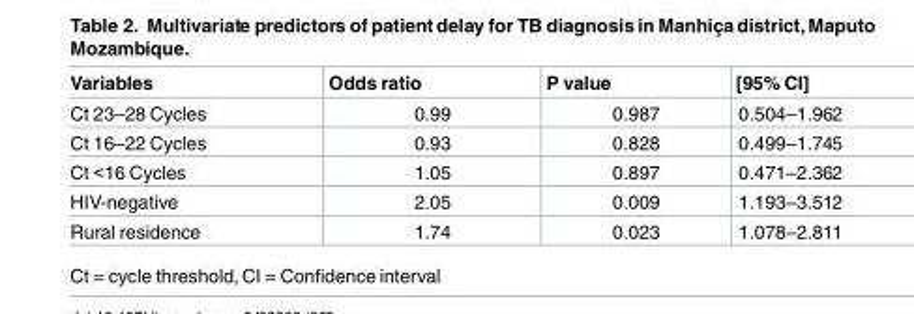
<table><thead><tr><td>Variables</td><td>Odds ratio</td><td>P value</td><td>[95% CI]</td></tr></thead><tbody><tr><td>Ct 23–28 Cycles</td><td>0.99</td><td>0.987</td><td>0.504–1.962</td></tr><tr><td>Ct 16–22 Cycles</td><td>0.93</td><td>0.828</td><td>0.499–1.745</td></tr><tr><td>Ct &lt;16 Cycles</td><td>1.05</td><td>0.897</td><td>0.471–2.362</td></tr><tr><td>HIV-negative</td><td>2.05</td><td>0.009</td><td>1.193–3.512</td></tr><tr><td>Rural residence</td><td>1.74</td><td>0.023</td><td>1.078–2.811</td></tr></tbody></table>